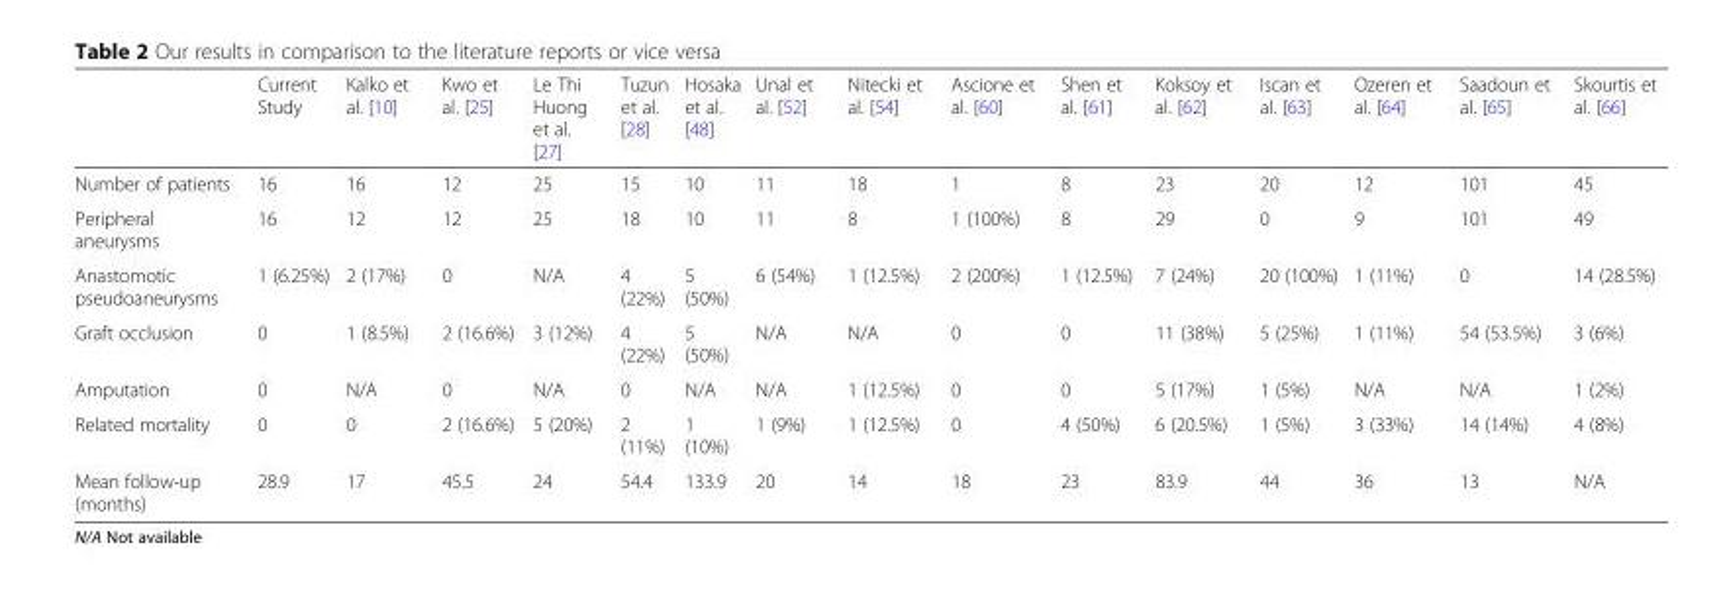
<table><thead><tr><td></td><td>Current Study</td><td>Kalko et al. [10]</td><td>Kwo et al. [25]</td><td>Le Thi Huong et al. [27]</td><td>Tuzun et al. [28]</td><td>Hosaka et al. [48]</td><td>Unal et al. [52]</td><td>Nitecki et al. [54]</td><td>Ascione et al. [60]</td><td>Shen et al. [61]</td><td>Koksoy et al. [62]</td><td>Iscan et al. [63]</td><td>Ozeren et al. [64]</td><td>Saadoun et al. [65]</td><td>Skourtis et al. [66]</td></tr></thead><tbody><tr><td>Number of patients</td><td>16</td><td>16</td><td>12</td><td>25</td><td>15</td><td>10</td><td>11</td><td>18</td><td>1</td><td>8</td><td>23</td><td>20</td><td>12</td><td>101</td><td>45</td></tr><tr><td>Peripheral aneurysms</td><td>16</td><td>12</td><td>12</td><td>25</td><td>18</td><td>10</td><td>11</td><td>8</td><td>1 (100%)</td><td>8</td><td>29</td><td>0</td><td>9</td><td>101</td><td>49</td></tr><tr><td>Anastomotic pseudoaneurysms</td><td>1 (6.25%)</td><td>2 (17%)</td><td>0</td><td>N/A</td><td>4 (22%)</td><td>5 (50%)</td><td>6 (54%)</td><td>1 (12.5%)</td><td>2 (200%)</td><td>1 (12.5%)</td><td>7 (24%)</td><td>20 (100%)</td><td>1 (11%)</td><td>0</td><td>14 (28.5%)</td></tr><tr><td>Graft occlusion</td><td>0</td><td>1 (8.5%)</td><td>2 (16.6%)</td><td>3 (12%)</td><td>4 (22%)</td><td>5 (50%)</td><td>N/A</td><td>N/A</td><td>0</td><td>0</td><td>11 (38%)</td><td>5 (25%)</td><td>1 (11%)</td><td>54 (53.5%)</td><td>3 (6%)</td></tr><tr><td>Amputation</td><td>0</td><td>N/A</td><td>0</td><td>N/A</td><td>0</td><td>N/A</td><td>N/A</td><td>1 (12.5%)</td><td>0</td><td>0</td><td>5 (17%)</td><td>1 (5%)</td><td>N/A</td><td>N/A</td><td>1 (2%)</td></tr><tr><td>Related mortality</td><td>0</td><td>0</td><td>2 (16.6%)</td><td>5 (20%)</td><td>2 (11%)</td><td>1 (10%)</td><td>1 (9%)</td><td>1 (12.5%)</td><td>0</td><td>4 (50%)</td><td>6 (20.5%)</td><td>1 (5%)</td><td>3 (33%)</td><td>14 (14%)</td><td>4 (8%)</td></tr><tr><td>Mean follow-up (months)</td><td>28.9</td><td>17</td><td>45.5</td><td>24</td><td>54.4</td><td>133.9</td><td>20</td><td>14</td><td>18</td><td>23</td><td>83.9</td><td>44</td><td>36</td><td>13</td><td>N/A</td></tr></tbody></table>